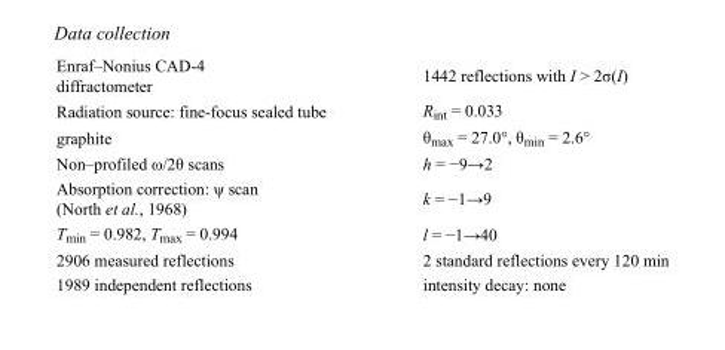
<table><tbody><tr><td>Enraf–Nonius CAD-4 diffractometer</td><td>1442 reflections with I &gt; 2σ(I)</td></tr><tr><td>Radiation source: fine-focus sealed tube</td><td>R<sub>int</sub> = 0.033</td></tr><tr><td>graphite</td><td>θ<sub>max</sub> = 27.0°, θ<sub>min</sub> = 2.6°</td></tr><tr><td>Non–profiled ω/2θ scans</td><td>h = −9→2</td></tr><tr><td>Absorption correction: ψ scan (North et al., 1968)</td><td>k = −1→9</td></tr><tr><td>T<sub>min</sub> = 0.982, T<sub>max</sub> = 0.994</td><td>l = −1→40</td></tr><tr><td>2906 measured reflections</td><td>2 standard reflections every 120 min</td></tr><tr><td>1989 independent reflections</td><td>intensity decay: none</td></tr></tbody></table>